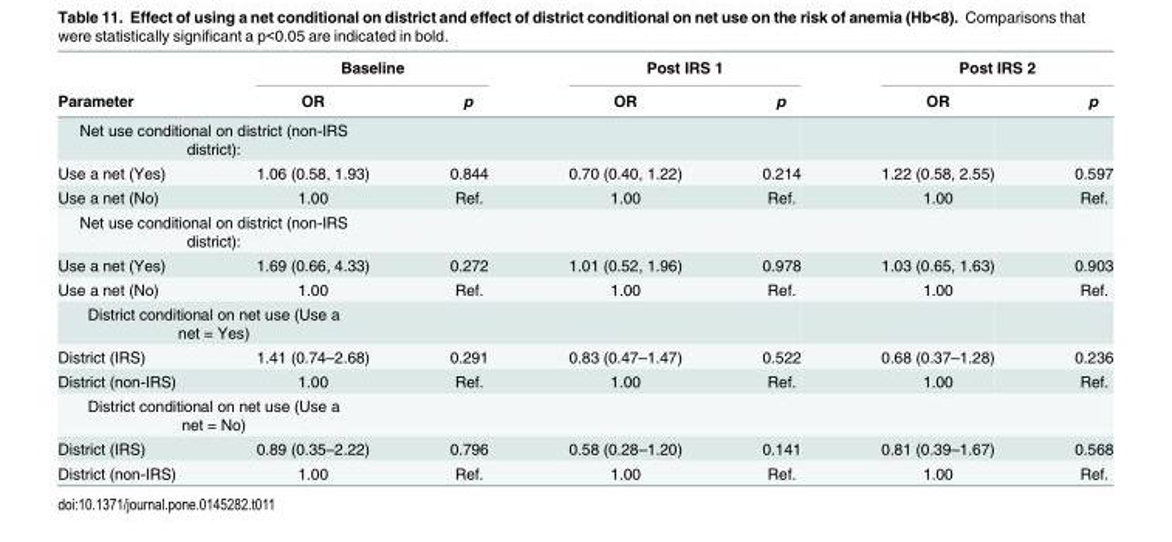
<table><thead><tr><td rowspan="2">Parameter</td><td colspan="2">Baseline</td><td colspan="2">Post IRS 1</td><td colspan="2">Post IRS 2</td></tr><tr><td>OR</td><td>p</td><td>OR</td><td>p</td><td>OR</td><td>p</td></tr></thead><tbody><tr><td colspan="7">Net use conditional on district (non-IRS district):</td></tr><tr><td>Use a net (Yes)</td><td>1.06 (0.58, 1.93)</td><td>0.844</td><td>0.70 (0.40, 1.22)</td><td>0.214</td><td>1.22 (0.58, 2.55)</td><td>0.597</td></tr><tr><td>Use a net (No)</td><td>1.00</td><td>Ref.</td><td>1.00</td><td>Ref.</td><td>1.00</td><td>Ref.</td></tr><tr><td colspan="7">Net use conditional on district (non-IRS district):</td></tr><tr><td>Use a net (Yes)</td><td>1.69 (0.66, 4.33)</td><td>0.272</td><td>1.01 (0.52, 1.96)</td><td>0.978</td><td>1.03 (0.65, 1.63)</td><td>0.903</td></tr><tr><td>Use a net (No)</td><td>1.00</td><td>Ref.</td><td>1.00</td><td>Ref.</td><td>1.00</td><td>Ref.</td></tr><tr><td colspan="7">District conditional on net use (Use a net = Yes)</td></tr><tr><td>District (IRS)</td><td>1.41 (0.74–2.68)</td><td>0.291</td><td>0.83 (0.47–1.47)</td><td>0.522</td><td>0.68 (0.37–1.28)</td><td>0.236</td></tr><tr><td>District (non-IRS)</td><td>1.00</td><td>Ref.</td><td>1.00</td><td>Ref.</td><td>1.00</td><td>Ref.</td></tr><tr><td colspan="7">District conditional on net use (Use a net = No)</td></tr><tr><td>District (IRS)</td><td>0.89 (0.35–2.22)</td><td>0.796</td><td>0.58 (0.28–1.20)</td><td>0.141</td><td>0.81 (0.39–1.67)</td><td>0.568</td></tr><tr><td>District (non-IRS)</td><td>1.00</td><td>Ref.</td><td>1.00</td><td>Ref.</td><td>1.00</td><td>Ref.</td></tr></tbody></table>